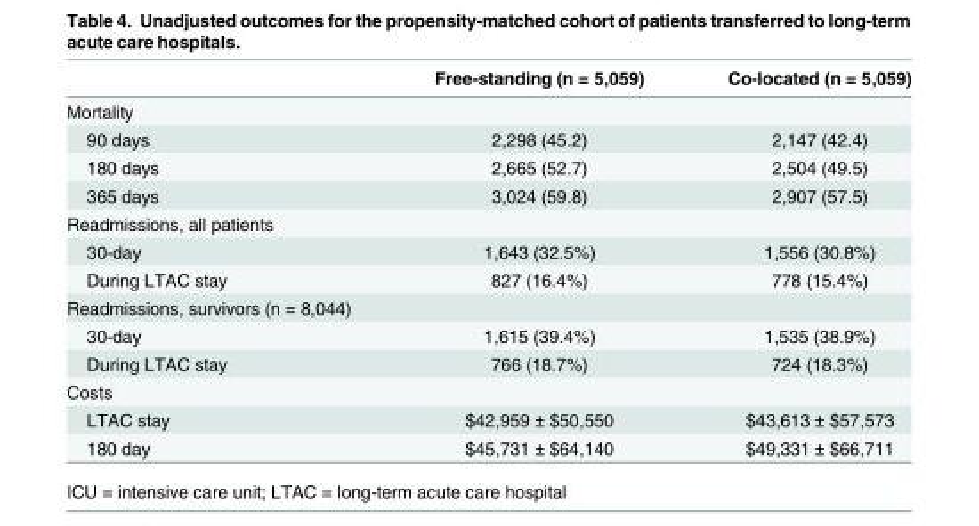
<table><thead><tr><td></td><td>Free-standing (n = 5,059)</td><td>Co-located (n = 5,059)</td></tr></thead><tbody><tr><td colspan="3">Mortality</td></tr><tr><td>90 days</td><td>2,298 (45.2)</td><td>2,147 (42.4)</td></tr><tr><td>180 days</td><td>2,665 (52.7)</td><td>2,504 (49.5)</td></tr><tr><td>365 days</td><td>3,024 (59.8)</td><td>2,907 (57.5)</td></tr><tr><td colspan="3">Readmissions, all patients</td></tr><tr><td>30-day</td><td>1,643 (32.5%)</td><td>1,556 (30.8%)</td></tr><tr><td>During LTAC stay</td><td>827 (16.4%)</td><td>778 (15.4%)</td></tr><tr><td colspan="3">Readmissions, survivors (n = 8,044)</td></tr><tr><td>30-day</td><td>1,615 (39.4%)</td><td>1,535 (38.9%)</td></tr><tr><td>During LTAC stay</td><td>766 (18.7%)</td><td>724 (18.3%)</td></tr><tr><td colspan="3">Costs</td></tr><tr><td>LTAC stay</td><td>$42,959 ± $50,550</td><td>$43,613 ± $57,573</td></tr><tr><td>180 day</td><td>$45,731 ± $64,140</td><td>$49,331 ± $66,711</td></tr></tbody></table>